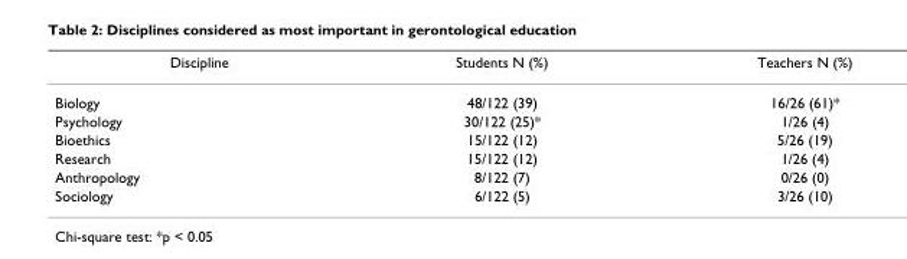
<table><thead><tr><td>Discipline</td><td>Students N (%)</td><td>Teachers N (%)</td></tr></thead><tbody><tr><td>Biology</td><td>48/122 (39)</td><td>16/26 (61)*</td></tr><tr><td>Psychology</td><td>30/122 (25)*</td><td>1/26 (4)</td></tr><tr><td>Bioethics</td><td>15/122 (12)</td><td>5/26 (19)</td></tr><tr><td>Research</td><td>15/122 (12)</td><td>1/26 (4)</td></tr><tr><td>Anthropology</td><td>8/122 (7)</td><td>0/26 (0)</td></tr><tr><td>Sociology</td><td>6/122 (5)</td><td>3/26 (10)</td></tr></tbody></table>